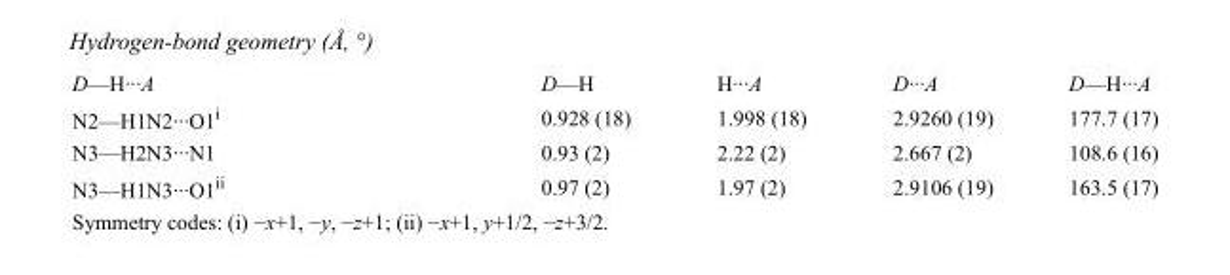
<table><tbody><tr><td>D—H···A</td><td>D—H</td><td>H···A</td><td>D···A</td><td>D—H···A</td></tr><tr><td>N2—H1N2···O1<sup>i</sup></td><td>0.928 (18)</td><td>1.998 (18)</td><td>2.9260 (19)</td><td>177.7 (17)</td></tr><tr><td>N3—H2N3···N1</td><td>0.93 (2)</td><td>2.22 (2)</td><td>2.667 (2)</td><td>108.6 (16)</td></tr><tr><td>N3—H1N3···O1<sup>ii</sup></td><td>0.97 (2)</td><td>1.97 (2)</td><td>2.9106 (19)</td><td>163.5 (17)</td></tr></tbody></table>